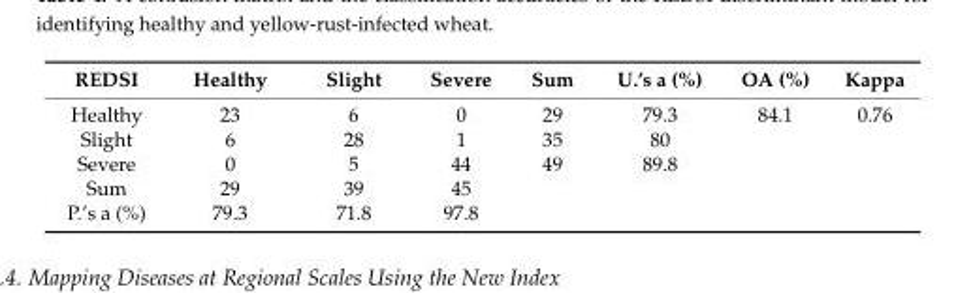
<table><thead><tr><td>REDSI</td><td>Healthy</td><td>Slight</td><td>Severe</td><td>Sum</td><td>U.’s a (%)</td><td>OA (%)</td><td>Kappa</td></tr></thead><tbody><tr><td>Healthy</td><td>23</td><td>6</td><td>0</td><td>29</td><td>79.3</td><td>84.1</td><td>0.76</td></tr><tr><td>Slight</td><td>6</td><td>28</td><td>1</td><td>35</td><td>80</td><td></td><td></td></tr><tr><td>Severe</td><td>0</td><td>5</td><td>44</td><td>49</td><td>89.8</td><td></td><td></td></tr><tr><td>Sum</td><td>29</td><td>39</td><td>45</td><td></td><td></td><td></td><td></td></tr><tr><td>P.’s a (%)</td><td>79.3</td><td>71.8</td><td>97.8</td><td></td><td></td><td></td><td></td></tr></tbody></table>